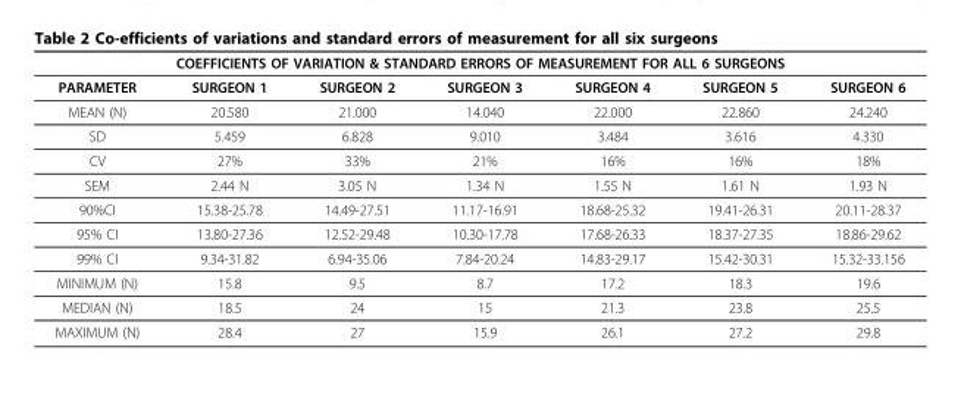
<table><thead><tr><td colspan="7">COEFFICIENTS OF VARIATION &amp; STANDARD ERRORS OF MEASUREMENT FOR ALL 6 SURGEONS</td></tr><tr><td>PARAMETER</td><td>SURGEON 1</td><td>SURGEON 2</td><td>SURGEON 3</td><td>SURGEON 4</td><td>SURGEON 5</td><td>SURGEON 6</td></tr></thead><tbody><tr><td>MEAN (N)</td><td>20.580</td><td>21.000</td><td>14.040</td><td>22.000</td><td>22.860</td><td>24.240</td></tr><tr><td>SD</td><td>5.459</td><td>6.828</td><td>9.010</td><td>3.484</td><td>3.616</td><td>4.330</td></tr><tr><td>CV</td><td>27%</td><td>33%</td><td>21%</td><td>16%</td><td>16%</td><td>18%</td></tr><tr><td>SEM</td><td>2.44 N</td><td>3.05 N</td><td>1.34 N</td><td>1.55 N</td><td>1.61 N</td><td>1.93 N</td></tr><tr><td>90%CI</td><td>15.38-25.78</td><td>14.49-27.51</td><td>11.17-16.91</td><td>18.68-25.32</td><td>19.41-26.31</td><td>20.11-28.37</td></tr><tr><td>95% CI</td><td>13.80-27.36</td><td>12.52-29.48</td><td>10.30-17.78</td><td>17.68-26.33</td><td>18.37-27.35</td><td>18.86-29.62</td></tr><tr><td>99% CI</td><td>9.34-31.82</td><td>6.94-35.06</td><td>7.84-20.24</td><td>14.83-29.17</td><td>15.42-30.31</td><td>15.32-33.156</td></tr><tr><td>MINIMUM (N)</td><td>15.8</td><td>9.5</td><td>8.7</td><td>17.2</td><td>18.3</td><td>19.6</td></tr><tr><td>MEDIAN (N)</td><td>18.5</td><td>24</td><td>15</td><td>21.3</td><td>23.8</td><td>25.5</td></tr><tr><td>MAXIMUM (N)</td><td>28.4</td><td>27</td><td>15.9</td><td>26.1</td><td>27.2</td><td>29.8</td></tr></tbody></table>